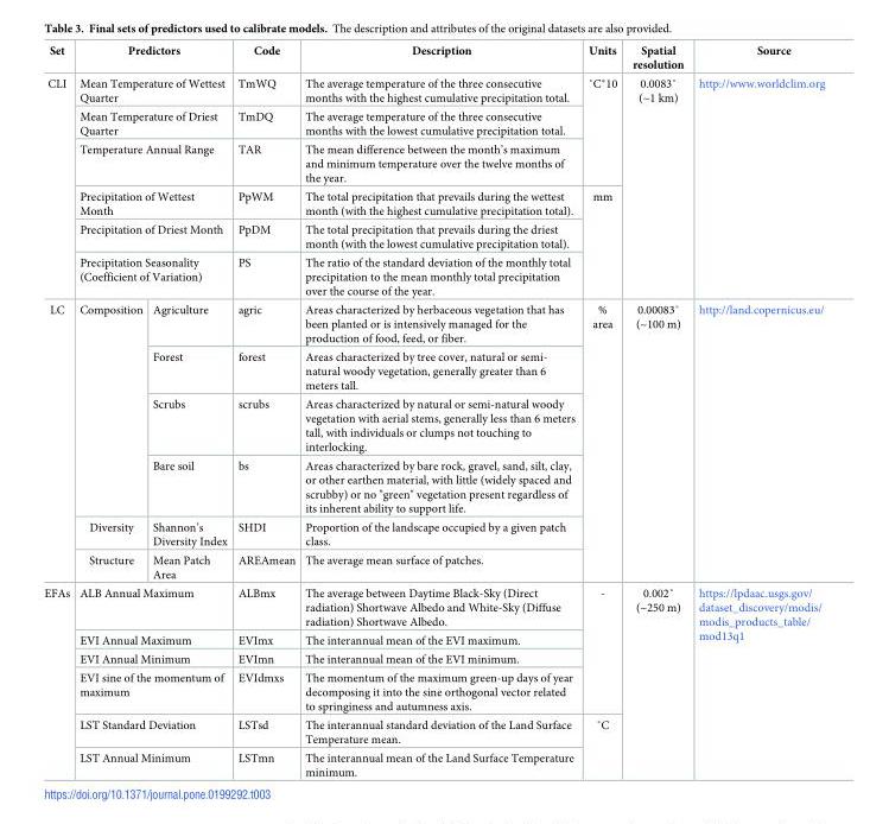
<table><thead><tr><td>Set</td><td colspan="2">Predictors</td><td>Code</td><td>Description</td><td>Units</td><td>Spatial resolution</td><td>Source</td></tr></thead><tbody><tr><td rowspan="6">CLI</td><td colspan="2">Mean Temperature of Wettest Quarter</td><td>TmWQ</td><td>The average temperature of the three consecutive months with the highest cumulative precipitation total.</td><td rowspan="3">˚C*10</td><td rowspan="6">0.0083˚ (~1 km)</td><td rowspan="6">http://www.worldclim.org</td></tr><tr><td colspan="2">Mean Temperature of Driest Quarter</td><td>TmDQ</td><td>The average temperature of the three consecutive months with the lowest cumulative precipitation total.</td></tr><tr><td colspan="2">Temperature Annual Range</td><td>TAR</td><td>The mean difference between the month’s maximum and minimum temperature over the twelve months of the year.</td></tr><tr><td colspan="2">Precipitation of Wettest Month</td><td>PpWM</td><td>The total precipitation that prevails during the wettest month (with the highest cumulative precipitation total).</td><td rowspan="3">mm</td></tr><tr><td colspan="2">Precipitation of Driest Month</td><td>PpDM</td><td>The total precipitation that prevails during the driest month (with the lowest cumulative precipitation total).</td></tr><tr><td colspan="2">Precipitation Seasonality (Coefficient of Variation)</td><td>PS</td><td>The ratio of the standard deviation of the monthly total precipitation to the mean monthly total precipitation over the course of the year.</td></tr><tr><td rowspan="6">LC</td><td rowspan="4">Composition</td><td>Agriculture</td><td>agric</td><td>Areas characterized by herbaceous vegetation that has been planted or is intensively managed for the production of food, feed, or fiber.</td><td rowspan="6">% area</td><td rowspan="6">0.00083˚ (~100 m)</td><td rowspan="6">http://land.copernicus.eu/</td></tr><tr><td>Forest</td><td>forest</td><td>Areas characterized by tree cover, natural or semi- natural woody vegetation, generally greater than 6 meters tall.</td></tr><tr><td>Scrubs</td><td>scrubs</td><td>Areas characterized by natural or semi-natural woody vegetation with aerial stems, generally less than 6 meters tall, with individuals or clumps not touching to interlocking.</td></tr><tr><td>Bare soil</td><td>bs</td><td>Areas characterized by bare rock, gravel, sand, silt, clay, or other earthen material, with little (widely spaced and scrubby) or no &quot;green&quot; vegetation present regardless of its inherent ability to support life.</td></tr><tr><td>Diversity</td><td>Shannon’s Diversity Index</td><td>SHDI</td><td>Proportion of the landscape occupied by a given patch class.</td></tr><tr><td>Structure</td><td>Mean Patch Area</td><td>AREAmean</td><td>The average mean surface of patches.</td></tr><tr><td rowspan="6">EFAs</td><td colspan="2">ALB Annual Maximum</td><td>ALBmx</td><td>The average between Daytime Black-Sky (Direct radiation) Shortwave Albedo and White-Sky (Diffuse radiation) Shortwave Albedo.</td><td rowspan="4">-</td><td rowspan="6">0.002˚ (~250 m)</td><td rowspan="6">https://lpdaac.usgs.gov/ dataset_discovery/modis/ modis_products_table/ mod13q1</td></tr><tr><td colspan="2">EVI Annual Maximum</td><td>EVImx</td><td>The interannual mean of the EVI maximum.</td></tr><tr><td colspan="2">EVI Annual Minimum</td><td>EVImn</td><td>The interannual mean of the EVI minimum.</td></tr><tr><td colspan="2">EVI sine of the momentum of maximum</td><td>EVIdmxs</td><td>The momentum of the maximum green-up days of year decomposing it into the sine orthogonal vector related to springiness and autumness axis.</td></tr><tr><td colspan="2">LST Standard Deviation</td><td>LSTsd</td><td>The interannual standard deviation of the Land Surface Temperature mean.</td><td rowspan="2">˚C</td></tr><tr><td colspan="2">LST Annual Minimum</td><td>LSTmn</td><td>The interannual mean of the Land Surface Temperature minimum.</td></tr></tbody></table>